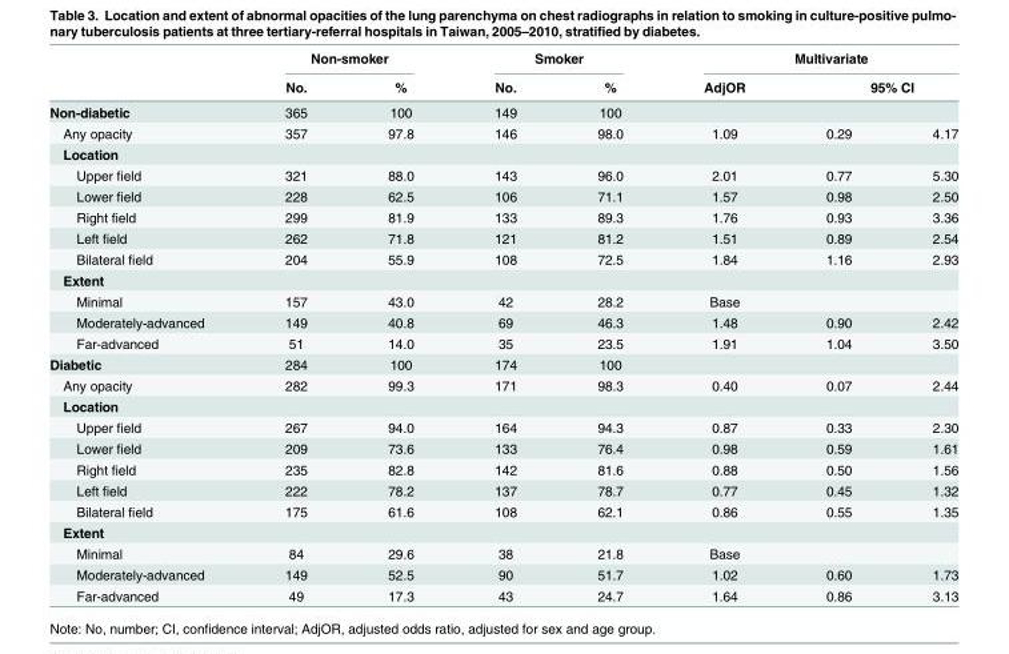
<table><thead><tr><td rowspan="3">Non-diabetic</td><td colspan="2">Non-smoker</td><td colspan="2">Smoker</td><td colspan="3">Multivariate</td></tr><tr><td rowspan="2">No. 365</td><td rowspan="2">% 100</td><td rowspan="2">No. 149</td><td rowspan="2">% 100</td><td rowspan="2">AdjOR</td><td colspan="2">95% CI</td></tr><tr><td></td><td></td></tr></thead><tbody><tr><td>Any opacity</td><td>357</td><td>97.8</td><td>146</td><td>98.0</td><td>1.09</td><td>0.29</td><td>4.17</td></tr><tr><td colspan="8">Location</td></tr><tr><td>Upper field</td><td>321</td><td>88.0</td><td>143</td><td>96.0</td><td>2.01</td><td>0.77</td><td>5.30</td></tr><tr><td>Lower field</td><td>228</td><td>62.5</td><td>106</td><td>71.1</td><td>1.57</td><td>0.98</td><td>2.50</td></tr><tr><td>Right field</td><td>299</td><td>81.9</td><td>133</td><td>89.3</td><td>1.76</td><td>0.93</td><td>3.36</td></tr><tr><td>Left field</td><td>262</td><td>71.8</td><td>121</td><td>81.2</td><td>1.51</td><td>0.89</td><td>2.54</td></tr><tr><td>Bilateral field</td><td>204</td><td>55.9</td><td>108</td><td>72.5</td><td>1.84</td><td>1.16</td><td>2.93</td></tr><tr><td colspan="8">Extent</td></tr><tr><td>Minimal</td><td>157</td><td>43.0</td><td>42</td><td>28.2</td><td>Base</td><td></td><td></td></tr><tr><td>Moderately-advanced</td><td>149</td><td>40.8</td><td>69</td><td>46.3</td><td>1.48</td><td>0.90</td><td>2.42</td></tr><tr><td>Far-advanced</td><td>51</td><td>14.0</td><td>35</td><td>23.5</td><td>1.91</td><td>1.04</td><td>3.50</td></tr><tr><td>Diabetic</td><td>284</td><td>100</td><td>174</td><td>100</td><td></td><td></td><td></td></tr><tr><td>Any opacity</td><td>282</td><td>99.3</td><td>171</td><td>98.3</td><td>0.40</td><td>0.07</td><td>2.44</td></tr><tr><td colspan="8">Location</td></tr><tr><td>Upper field</td><td>267</td><td>94.0</td><td>164</td><td>94.3</td><td>0.87</td><td>0.33</td><td>2.30</td></tr><tr><td>Lower field</td><td>209</td><td>73.6</td><td>133</td><td>76.4</td><td>0.98</td><td>0.59</td><td>1.61</td></tr><tr><td>Right field</td><td>235</td><td>82.8</td><td>142</td><td>81.6</td><td>0.88</td><td>0.50</td><td>1.56</td></tr><tr><td>Left field</td><td>222</td><td>78.2</td><td>137</td><td>78.7</td><td>0.77</td><td>0.45</td><td>1.32</td></tr><tr><td>Bilateral field</td><td>175</td><td>61.6</td><td>108</td><td>62.1</td><td>0.86</td><td>0.55</td><td>1.35</td></tr><tr><td colspan="8">Extent</td></tr><tr><td>Minimal</td><td>84</td><td>29.6</td><td>38</td><td>21.8</td><td>Base</td><td></td><td></td></tr><tr><td>Moderately-advanced</td><td>149</td><td>52.5</td><td>90</td><td>51.7</td><td>1.02</td><td>0.60</td><td>1.73</td></tr><tr><td>Far-advanced</td><td>49</td><td>17.3</td><td>43</td><td>24.7</td><td>1.64</td><td>0.86</td><td>3.13</td></tr></tbody></table>